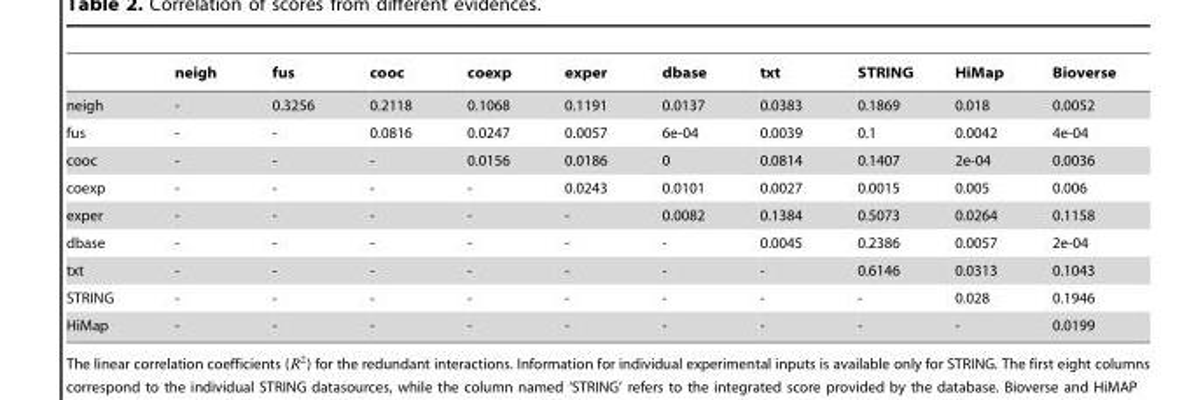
<table><thead><tr><td></td><td>neigh</td><td>fus</td><td>cooc</td><td>coexp</td><td>exper</td><td>dbase</td><td>txt</td><td>STRING</td><td>HiMap</td><td>Bioverse</td></tr></thead><tbody><tr><td>neigh</td><td>-</td><td>0.3256</td><td>0.2118</td><td>0.1068</td><td>0.1191</td><td>0.0137</td><td>0.0383</td><td>0.1869</td><td>0.018</td><td>0.0052</td></tr><tr><td>fus</td><td>-</td><td>-</td><td>0.0816</td><td>0.0247</td><td>0.0057</td><td>6e-04</td><td>0.0039</td><td>0.1</td><td>0.0042</td><td>4e-04</td></tr><tr><td>cooc</td><td>-</td><td>-</td><td>-</td><td>0.0156</td><td>0.0186</td><td>0</td><td>0.0814</td><td>0.1407</td><td>2e-04</td><td>0.0036</td></tr><tr><td>coexp</td><td>-</td><td>-</td><td>-</td><td>-</td><td>0.0243</td><td>0.0101</td><td>0.0027</td><td>0.0015</td><td>0.005</td><td>0.006</td></tr><tr><td>exper</td><td>-</td><td>-</td><td>-</td><td>-</td><td>-</td><td>0.0082</td><td>0.1384</td><td>0.5073</td><td>0.0264</td><td>0.1158</td></tr><tr><td>dbase</td><td>-</td><td>-</td><td>-</td><td>-</td><td>-</td><td>-</td><td>0.0045</td><td>0.2386</td><td>0.0057</td><td>2e-04</td></tr><tr><td>txt</td><td>-</td><td>-</td><td>-</td><td>-</td><td>-</td><td>-</td><td>-</td><td>0.6146</td><td>0.0313</td><td>0.1043</td></tr><tr><td>STRING</td><td>-</td><td>-</td><td>-</td><td>-</td><td>-</td><td>-</td><td>-</td><td>-</td><td>0.028</td><td>0.1946</td></tr><tr><td>HiMap</td><td>-</td><td>-</td><td>-</td><td>-</td><td>-</td><td>-</td><td>-</td><td>-</td><td>-</td><td>0.0199</td></tr></tbody></table>